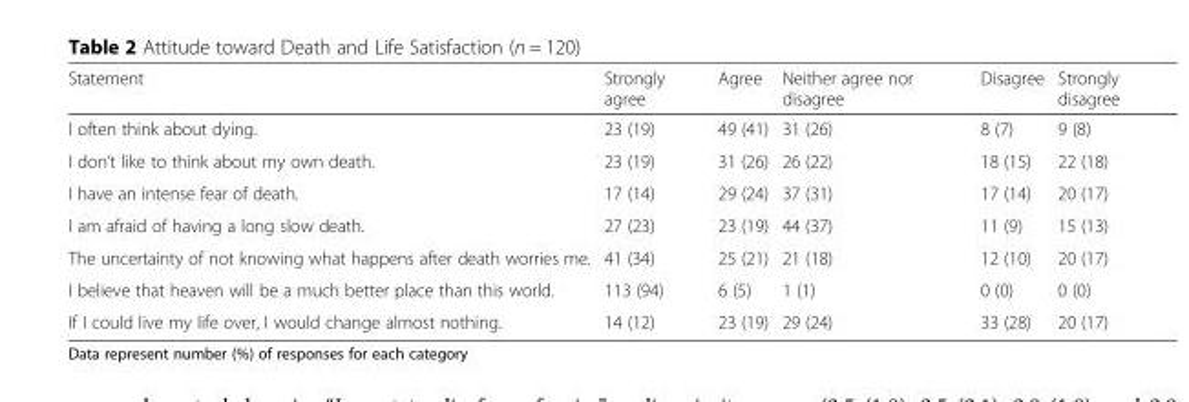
<table><thead><tr><td>Statement</td><td>Strongly agree</td><td>Agree</td><td>Neither agree nor disagree</td><td>Disagree</td><td>Strongly disagree</td></tr></thead><tbody><tr><td>I often think about dying.</td><td>23 (19)</td><td>49 (41)</td><td>31 (26)</td><td>8 (7)</td><td>9 (8)</td></tr><tr><td>I don’t like to think about my own death.</td><td>23 (19)</td><td>31 (26)</td><td>26 (22)</td><td>18 (15)</td><td>22 (18)</td></tr><tr><td>I have an intense fear of death.</td><td>17 (14)</td><td>29 (24)</td><td>37 (31)</td><td>17 (14)</td><td>20 (17)</td></tr><tr><td>I am afraid of having a long slow death.</td><td>27 (23)</td><td>23 (19)</td><td>44 (37)</td><td>11 (9)</td><td>15 (13)</td></tr><tr><td>The uncertainty of not knowing what happens after death worries me.</td><td>41 (34)</td><td>25 (21)</td><td>21 (18)</td><td>12 (10)</td><td>20 (17)</td></tr><tr><td>I believe that heaven will be a much better place than this world.</td><td>113 (94)</td><td>6 (5)</td><td>1 (1)</td><td>0 (0)</td><td>0 (0)</td></tr><tr><td>If I could live my life over, I would change almost nothing.</td><td>14 (12)</td><td>23 (19)</td><td>29 (24)</td><td>33 (28)</td><td>20 (17)</td></tr></tbody></table>